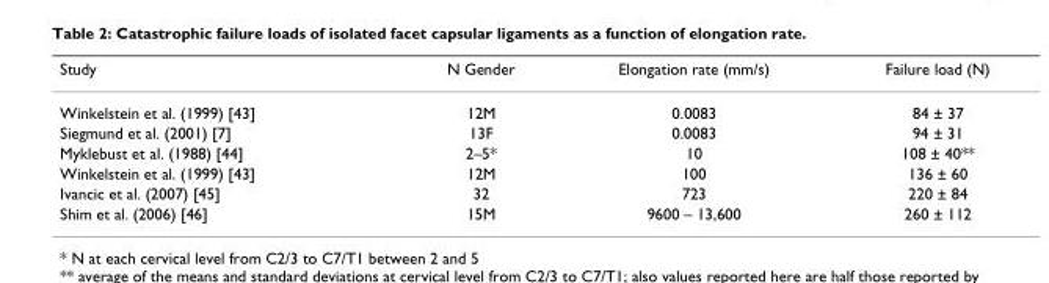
<table><thead><tr><td>Study</td><td>N Gender</td><td>Elongation rate (mm/s)</td><td>Failure load (N)</td></tr></thead><tbody><tr><td>Winkelstein et al. (1999) [43]</td><td>12M</td><td>0.0083</td><td>84 ± 37</td></tr><tr><td>Siegmund et al. (2001) [7]</td><td>13F</td><td>0.0083</td><td>94 ± 31</td></tr><tr><td>Myklebust et al. (1988) [44]</td><td>2–5*</td><td>10</td><td>108 ± 40**</td></tr><tr><td>Winkelstein et al. (1999) [43]</td><td>12M</td><td>100</td><td>136 ± 60</td></tr><tr><td>Ivancic et al. (2007) [45]</td><td>32</td><td>723</td><td>220 ± 84</td></tr><tr><td>Shim et al. (2006) [46]</td><td>15M</td><td>9600 – 13,600</td><td>260 ± 112</td></tr></tbody></table>